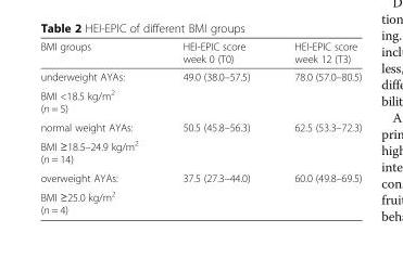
<table><thead><tr><td>BMI groups</td><td>HEI-EPIC score week 0 (T0)</td><td>HEI-EPIC score week 12 (T3)</td></tr></thead><tbody><tr><td>underweight AYAs:</td><td rowspan="2">49.0 (38.0–57.5)</td><td rowspan="2">78.0 (57.0–80.5)</td></tr><tr><td>BMI &lt;18.5 kg/m<sup>2</sup> (n = 5)</td></tr><tr><td>normal weight AYAs:</td><td rowspan="2">50.5 (45.8–56.3)</td><td rowspan="2">62.5 (53.3–72.3)</td></tr><tr><td>BMI ≥18.5–24.9 kg/m<sup>2</sup> (n = 14)</td></tr><tr><td>overweight AYAs:</td><td rowspan="2">37.5 (27.3–44.0)</td><td rowspan="2">60.0 (49.8–69.5)</td></tr><tr><td>BMI ≥25.0 kg/m<sup>2</sup> (n = 4)</td></tr></tbody></table>